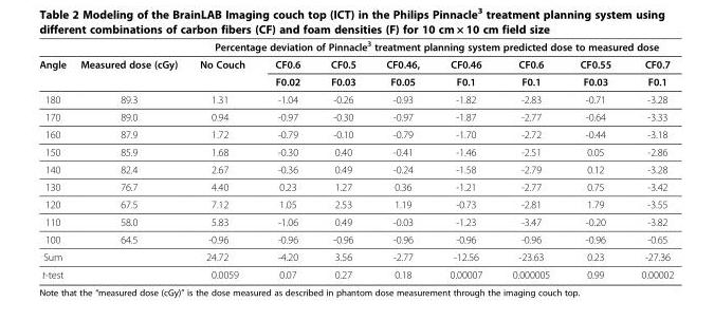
<table><thead><tr><td rowspan="2">Angle</td><td rowspan="2">Measured dose (cGy)</td><td colspan="8">Percentage deviation of Pinnacle<sup>3</sup> treatment planning system predicted dose to measured dose</td></tr><tr><td>No Couch</td><td>CF0.6</td><td>CF0.5</td><td>CF0.46,</td><td>CF0.46</td><td>CF0.6</td><td>CF0.55</td><td>CF0.7</td></tr></thead><tbody><tr><td></td><td></td><td></td><td>F0.02</td><td>F0.03</td><td>F0.05</td><td>F0.1</td><td>F0.1</td><td>F0.03</td><td>F0.1</td></tr><tr><td>180</td><td>89.3</td><td>1.31</td><td>-1.04</td><td>-0.26</td><td>-0.93</td><td>-1.82</td><td>-2.83</td><td>-0.71</td><td>-3.28</td></tr><tr><td>170</td><td>89.0</td><td>0.94</td><td>-0.97</td><td>-0.30</td><td>-0.97</td><td>-1.87</td><td>-2.77</td><td>-0.64</td><td>-3.33</td></tr><tr><td>160</td><td>87.9</td><td>1.72</td><td>-0.79</td><td>-0.10</td><td>-0.79</td><td>-1.70</td><td>-2.72</td><td>-0.44</td><td>-3.18</td></tr><tr><td>150</td><td>85.9</td><td>1.68</td><td>-0.30</td><td>0.40</td><td>-0.41</td><td>-1.46</td><td>-2.51</td><td>0.05</td><td>-2.86</td></tr><tr><td>140</td><td>82.4</td><td>2.67</td><td>-0.36</td><td>0.49</td><td>-0.24</td><td>-1.58</td><td>-2.79</td><td>0.12</td><td>-3.28</td></tr><tr><td>130</td><td>76.7</td><td>4.40</td><td>0.23</td><td>1.27</td><td>0.36</td><td>-1.21</td><td>-2.77</td><td>0.75</td><td>-3.42</td></tr><tr><td>120</td><td>67.5</td><td>7.12</td><td>1.05</td><td>2.53</td><td>1.19</td><td>-0.73</td><td>-2.81</td><td>1.79</td><td>-3.55</td></tr><tr><td>110</td><td>58.0</td><td>5.83</td><td>-1.06</td><td>0.49</td><td>-0.03</td><td>-1.23</td><td>-3.47</td><td>-0.20</td><td>-3.82</td></tr><tr><td>100</td><td>64.5</td><td>-0.96</td><td>-0.96</td><td>-0.96</td><td>-0.96</td><td>-0.96</td><td>-0.96</td><td>-0.96</td><td>-0.65</td></tr><tr><td>Sum</td><td></td><td>24.72</td><td>-4.20</td><td>3.56</td><td>-2.77</td><td>-12.56</td><td>-23.63</td><td>0.23</td><td>-27.36</td></tr><tr><td>t-test</td><td></td><td>0.0059</td><td>0.07</td><td>0.27</td><td>0.18</td><td>0.00007</td><td>0.000005</td><td>0.99</td><td>0.00002</td></tr></tbody></table>